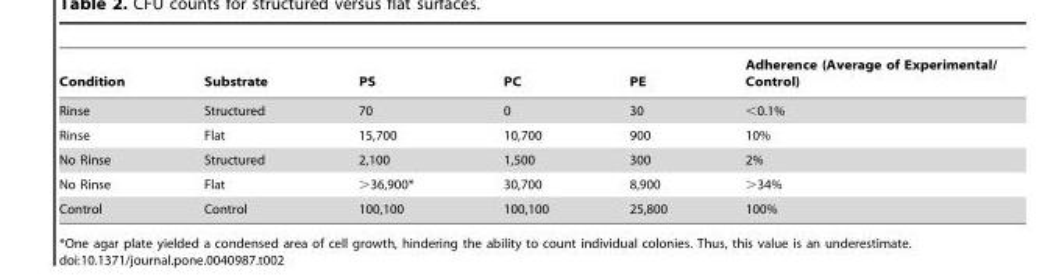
<table><thead><tr><td>Condition</td><td>Substrate</td><td>PS</td><td>PC</td><td>PE</td><td>Adherence (Average of Experimental/ Control)</td></tr></thead><tbody><tr><td>Rinse</td><td>Structured</td><td>70</td><td>0</td><td>30</td><td>&lt;0.1%</td></tr><tr><td>Rinse</td><td>Flat</td><td>15,700</td><td>10,700</td><td>900</td><td>10%</td></tr><tr><td>No Rinse</td><td>Structured</td><td>2,100</td><td>1,500</td><td>300</td><td>2%</td></tr><tr><td>No Rinse</td><td>Flat</td><td>&gt;36,900*</td><td>30,700</td><td>8,900</td><td>&gt;34%</td></tr><tr><td>Control</td><td>Control</td><td>100,100</td><td>100,100</td><td>25,800</td><td>100%</td></tr></tbody></table>